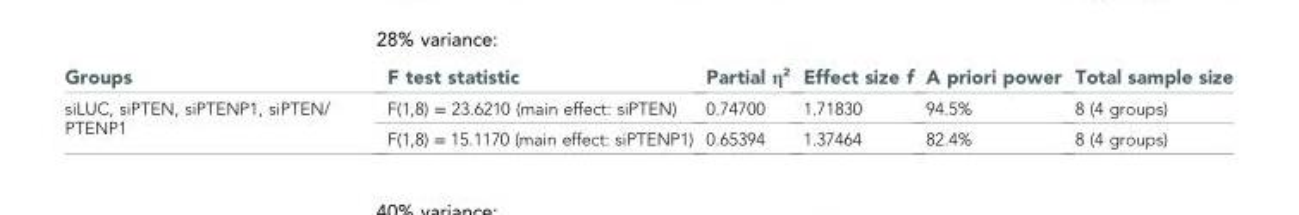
<table><thead><tr><td>Groups</td><td>F test statistic</td><td>Partial η<sup>2</sup></td><td>Effect size f</td><td>A priori power</td><td>Total sample size</td></tr></thead><tbody><tr><td rowspan="2">siLUC, siPTEN, siPTENP1, siPTEN/ PTENP1</td><td>F(1,8) = 23.6210 (main effect: siPTEN)</td><td>0.74700</td><td>1.71830</td><td>94.5%</td><td>8 (4 groups)</td></tr><tr><td>F(1,8) = 15.1170 (main effect: siPTENP1)</td><td>0.65394</td><td>1.37464</td><td>82.4%</td><td>8 (4 groups)</td></tr></tbody></table>